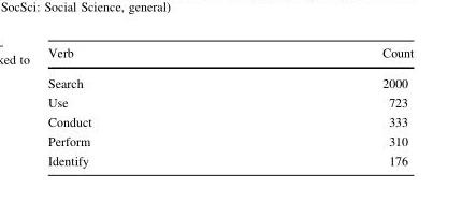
<table><thead><tr><td>Verb</td><td>Count</td></tr></thead><tbody><tr><td>Search</td><td>2000</td></tr><tr><td>Use</td><td>723</td></tr><tr><td>Conduct</td><td>333</td></tr><tr><td>Perform</td><td>310</td></tr><tr><td>Identify</td><td>176</td></tr></tbody></table>